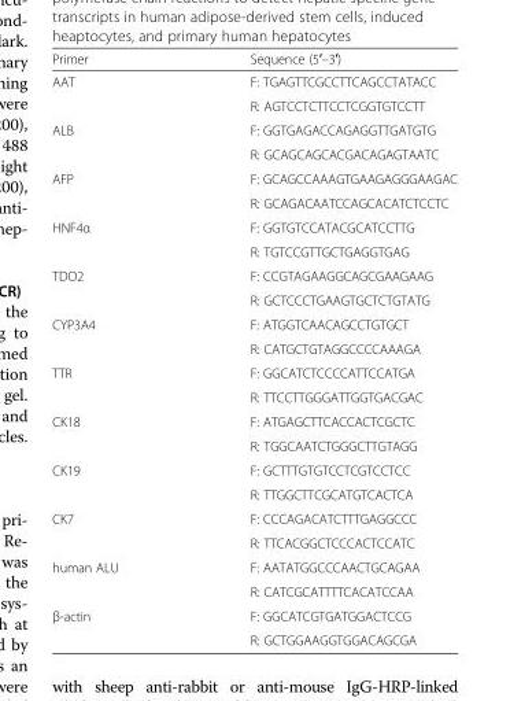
<table><thead><tr><td>Primer</td><td>Sequence (5′–3′)</td></tr></thead><tbody><tr><td rowspan="2">AAT</td><td>F: TGAGTTCGCCTTCAGCCTATACC</td></tr><tr><td>R: AGTCCTCTTCCTCGGTGTCCTT</td></tr><tr><td rowspan="2">ALB</td><td>F: GGTGAGACCAGAGGTTGATGTG</td></tr><tr><td>R: GCAGCAGCACGACAGAGTAATC</td></tr><tr><td rowspan="2">AFP</td><td>F: GCAGCCAAAGTGAAGAGGGAAGAC</td></tr><tr><td>R: GCAGACAATCCAGCACATCTCCTC</td></tr><tr><td rowspan="2">HNF4α</td><td>F: GGTGTCCATACGCATCCTTG</td></tr><tr><td>R: TGTCCGTTGCTGAGGTGAG</td></tr><tr><td rowspan="2">TDO2</td><td>F: CCGTAGAAGGCAGCGAAGAAG</td></tr><tr><td>R: GCTCCCTGAAGTGCTCTGTATG</td></tr><tr><td rowspan="2">CYP3A4</td><td>F: ATGGTCAACAGCCTGTGCT</td></tr><tr><td>R: CATGCTGTAGGCCCCAAAGA</td></tr><tr><td rowspan="2">TTR</td><td>F: GGCATCTCCCCATTCCATGA</td></tr><tr><td>R: TTCCTTGGGATTGGTGACGAC</td></tr><tr><td rowspan="2">CK18</td><td>F: ATGAGCTTCACCACTCGCTC</td></tr><tr><td>R: TGGCAATCTGGGCTTGTAGG</td></tr><tr><td rowspan="2">CK19</td><td>F: GCTTTGTGTCCTCGTCCTCC</td></tr><tr><td>R: TTGGCTTCGCATGTCACTCA</td></tr><tr><td rowspan="2">CK7</td><td>F: CCCAGACATCTTTGAGGCCC</td></tr><tr><td>R: TTCACGGCTCCCACTCCATC</td></tr><tr><td rowspan="2">human ALU</td><td>F: AATATGGCCCAACTGCAGAA</td></tr><tr><td>R: CATCGCATTTTCACATCCAA</td></tr><tr><td rowspan="2">β-actin</td><td>F: GGCATCGTGATGGACTCCG</td></tr><tr><td>R: GCTGGAAGGTGGACAGCGA</td></tr></tbody></table>